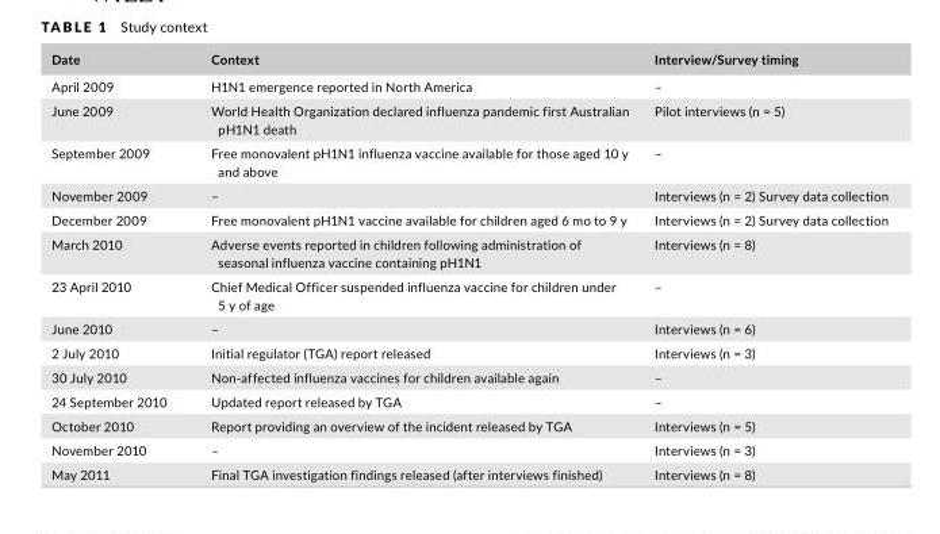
<table><thead><tr><td>Date</td><td>Context</td><td>Interview/Survey timing</td></tr></thead><tbody><tr><td>April 2009</td><td>H1N1 emergence reported in North America</td><td>–</td></tr><tr><td>June 2009</td><td>World Health Organization declared influenza pandemic first Australian pH1N1 death</td><td>Pilot interviews (n = 5)</td></tr><tr><td>September 2009</td><td>Free monovalent pH1N1 influenza vaccine available for those aged 10 y and above</td><td>–</td></tr><tr><td>November 2009</td><td>–</td><td>Interviews (n = 2) Survey data collection</td></tr><tr><td>December 2009</td><td>Free monovalent pH1N1 vaccine available for children aged 6 mo to 9 y</td><td>Interviews (n = 2) Survey data collection</td></tr><tr><td>March 2010</td><td>Adverse events reported in children following administration of seasonal influenza vaccine containing pH1N1</td><td>Interviews (n = 8)</td></tr><tr><td>23 April 2010</td><td>Chief Medical Officer suspended influenza vaccine for children under 5 y of age</td><td>–</td></tr><tr><td>June 2010</td><td>–</td><td>Interviews (n = 6)</td></tr><tr><td>2 July 2010</td><td>Initial regulator (TGA) report released</td><td>Interviews (n = 3)</td></tr><tr><td>30 July 2010</td><td>Non- affected influenza vaccines for children available again</td><td>–</td></tr><tr><td>24 September 2010</td><td>Updated report released by TGA</td><td>–</td></tr><tr><td>October 2010</td><td>Report providing an overview of the incident released by TGA</td><td>Interviews (n = 5)</td></tr><tr><td>November 2010</td><td>–</td><td>Interviews (n = 3)</td></tr><tr><td>May 2011</td><td>Final TGA investigation findings released (after interviews finished)</td><td>Interviews (n = 8)</td></tr></tbody></table>